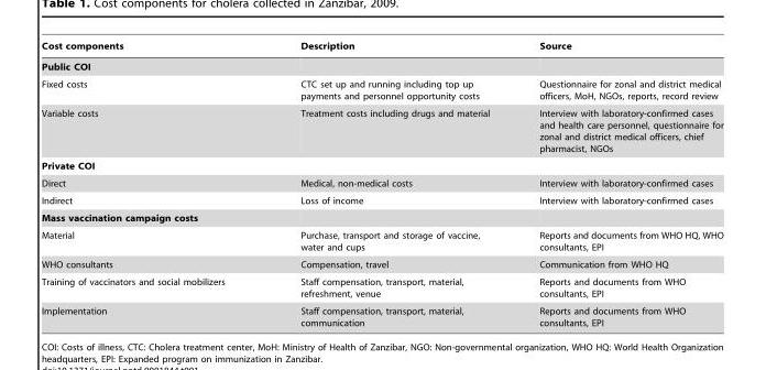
<table><thead><tr><td>Cost components</td><td>Description</td><td>Source</td></tr></thead><tbody><tr><td colspan="3">Public COI</td></tr><tr><td>Fixed costs</td><td>CTC set up and running including top up payments and personnel opportunity costs</td><td>Questionnaire for zonal and district medical officers, MoH, NGOs, reports, record review</td></tr><tr><td>Variable costs</td><td>Treatment costs including drugs and material</td><td>Interview with laboratory-confirmed cases and health care personnel, questionnaire for zonal and district medical officers, chief pharmacist, NGOs</td></tr><tr><td colspan="3">Private COI</td></tr><tr><td>Direct</td><td>Medical, non-medical costs</td><td>Interview with laboratory-confirmed cases</td></tr><tr><td>Indirect</td><td>Loss of income</td><td>Interview with laboratory-confirmed cases</td></tr><tr><td colspan="3">Mass vaccination campaign costs</td></tr><tr><td>Material</td><td>Purchase, transport and storage of vaccine, water and cups</td><td>Reports and documents from WHO HQ, WHO consultants, EPI</td></tr><tr><td>WHO consultants</td><td>Compensation, travel</td><td>Communication from WHO HQ</td></tr><tr><td>Training of vaccinators and social mobilizers</td><td>Staff compensation, transport, material, refreshment, venue</td><td>Reports and documents from WHO consultants, EPI</td></tr><tr><td>Implementation</td><td>Staff compensation, transport, material, communication</td><td>Reports and documents from WHO consultants, EPI</td></tr></tbody></table>